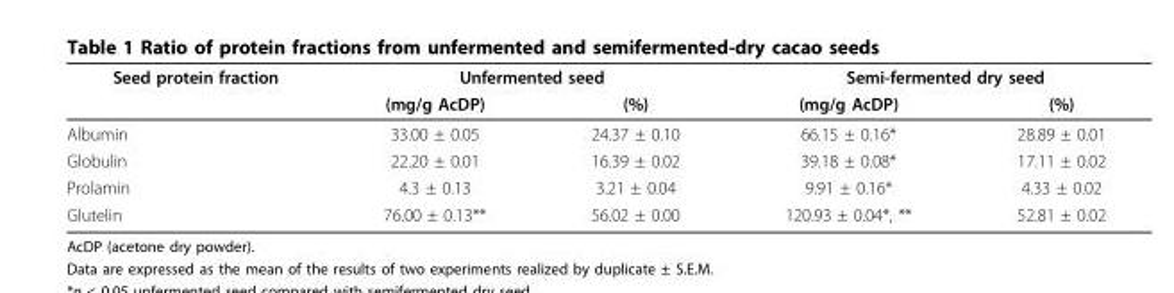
<table><thead><tr><td rowspan="2">Seed protein fraction</td><td colspan="2">Unfermented seed</td><td colspan="2">Semi-fermented dry seed</td></tr><tr><td>(mg/g AcDP)</td><td>(%)</td><td>(mg/g AcDP)</td><td>(%)</td></tr></thead><tbody><tr><td>Albumin</td><td>33.00 ± 0.05</td><td>24.37 ± 0.10</td><td>66.15 ± 0.16*</td><td>28.89 ± 0.01</td></tr><tr><td>Globulin</td><td>22.20 ± 0.01</td><td>16.39 ± 0.02</td><td>39.18 ± 0.08*</td><td>17.11 ± 0.02</td></tr><tr><td>Prolamin</td><td>4.3 ± 0.13</td><td>3.21 ± 0.04</td><td>9.91 ± 0.16*</td><td>4.33 ± 0.02</td></tr><tr><td>Glutelin</td><td>76.00 ± 0.13**</td><td>56.02 ± 0.00</td><td>120.93 ± 0.04*, **</td><td>52.81 ± 0.02</td></tr></tbody></table>